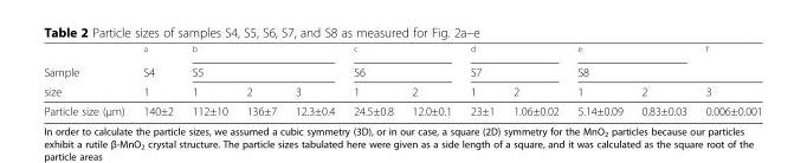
<table><thead><tr><td rowspan="3">Sample size</td><td rowspan="3">a S4 1</td><td rowspan="2" colspan="3">b S5</td><td rowspan="2" colspan="2">c S6</td><td rowspan="2" colspan="2">d S7</td><td colspan="2"><sup>e</sup></td><td><sup>f</sup></td></tr><tr><td colspan="3">S8</td></tr><tr><td>1</td><td>2</td><td>3</td><td>1</td><td>2</td><td>1</td><td>2</td><td>1</td><td>2</td><td>3</td></tr></thead><tbody><tr><td>Particle size (μm)</td><td>140±2</td><td>112±10</td><td>136±7</td><td>12.3±0.4</td><td>24.5±0.8</td><td>12.0±0.1</td><td>23±1</td><td>1.06±0.02</td><td>5.14±0.09</td><td>0.83±0.03</td><td>0.006±0.001</td></tr></tbody></table>